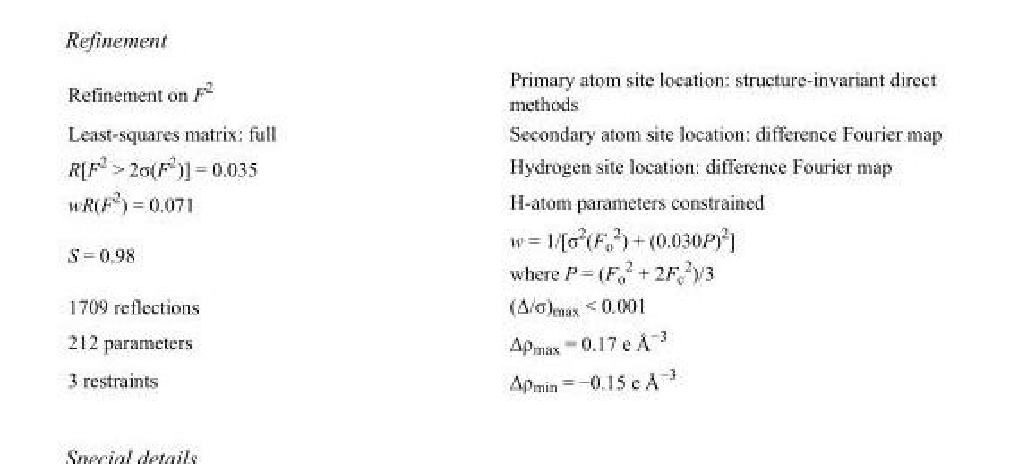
<table><tbody><tr><td>Refinement on F<sup>2</sup></td><td>Primary atom site location: structure-invariant direct methods</td></tr><tr><td>Least-squares matrix: full</td><td>Secondary atom site location: difference Fourier map</td></tr><tr><td>R[F<sup>2</sup> &gt; 2σ(F<sup>2</sup>)] = 0.035</td><td>Hydrogen site location: difference Fourier map</td></tr><tr><td>wR(F<sup>2</sup>) = 0.071</td><td>H-atom parameters constrained</td></tr><tr><td>S = 0.98</td><td>w = 1/[σ<sup>2</sup>(F<sub>o</sub> <sup>2</sup>) + (0.030P)<sup>2</sup>] where P = (F<sub>o</sub> <sup>2</sup> + 2F<sub>c</sub> <sup>2</sup>)/3</td></tr><tr><td>1709 reflections</td><td>(Δ/σ)<sub>max</sub> &lt; 0.001</td></tr><tr><td>212 parameters</td><td>Δρ<sub>max</sub> = 0.17 e Å<sup>−3</sup></td></tr><tr><td>3 restraints</td><td>Δρ<sub>min</sub> = −0.15 e Å<sup>−3</sup></td></tr></tbody></table>